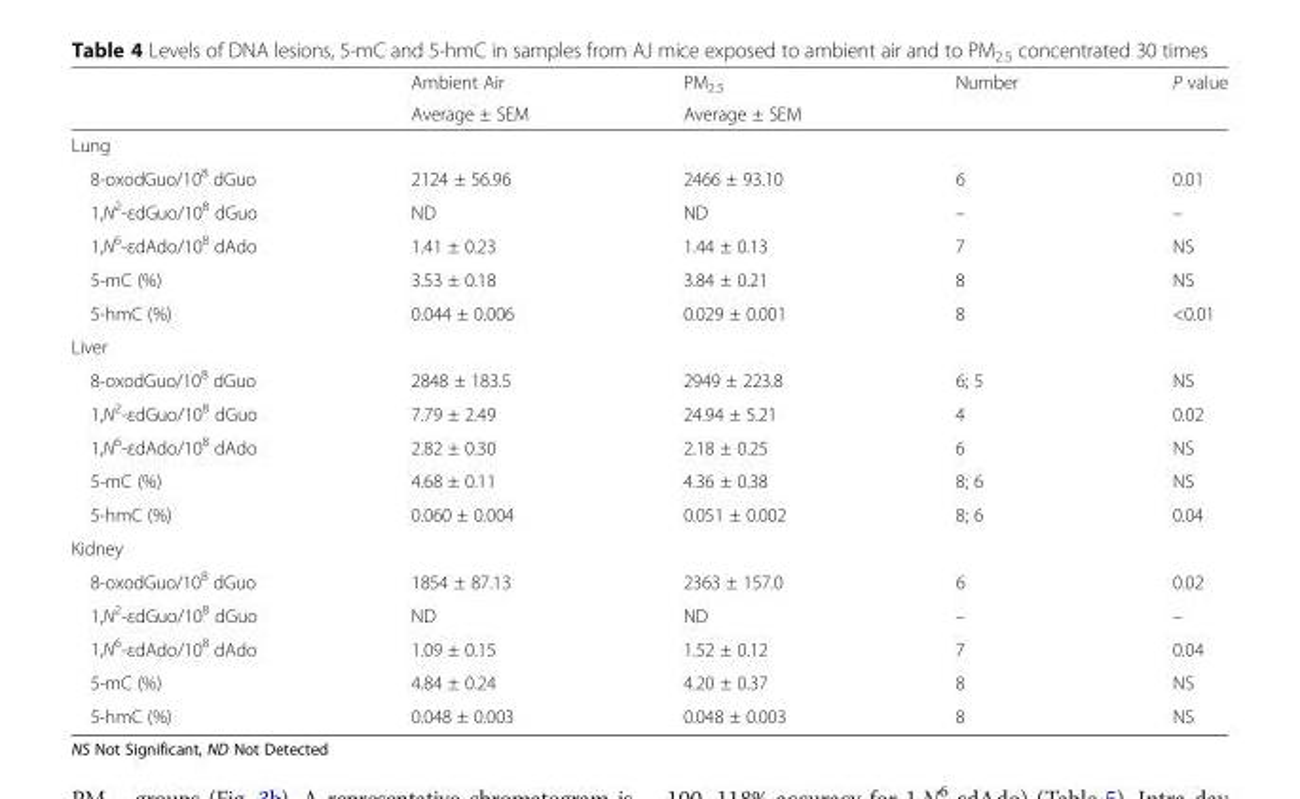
<table><thead><tr><td rowspan="2"></td><td rowspan="2">Ambient Air Average ± SEM</td><td rowspan="2">PM<sub>2.5</sub> Average ± SEM</td><td rowspan="2">Number</td><td rowspan="2">P value</td></tr><tr></tr></thead><tbody><tr><td colspan="5">Lung</td></tr><tr><td>8-oxodGuo/10<sup>8</sup> dGuo</td><td>2124 ± 56.96</td><td>2466 ± 93.10</td><td>6</td><td>0.01</td></tr><tr><td>1,N<sup>2</sup>-εdGuo/10<sup>8</sup> dGuo</td><td>ND</td><td>ND</td><td>–</td><td>–</td></tr><tr><td>1,N<sup>6</sup>-εdAdo/10<sup>8</sup> dAdo</td><td>1.41 ± 0.23</td><td>1.44 ± 0.13</td><td>7</td><td>NS</td></tr><tr><td>5-mC (%)</td><td>3.53 ± 0.18</td><td>3.84 ± 0.21</td><td>8</td><td>NS</td></tr><tr><td>5-hmC (%)</td><td>0.044 ± 0.006</td><td>0.029 ± 0.001</td><td>8</td><td>&lt;0.01</td></tr><tr><td colspan="5">Liver</td></tr><tr><td>8-oxodGuo/10<sup>8</sup> dGuo</td><td>2848 ± 183.5</td><td>2949 ± 223.8</td><td>6; 5</td><td>NS</td></tr><tr><td>1,N<sup>2</sup>-εdGuo/10<sup>8</sup> dGuo</td><td>7.79 ± 2.49</td><td>24.94 ± 5.21</td><td>4</td><td>0.02</td></tr><tr><td>1,N<sup>6</sup>-εdAdo/10<sup>8</sup> dAdo</td><td>2.82 ± 0.30</td><td>2.18 ± 0.25</td><td>6</td><td>NS</td></tr><tr><td>5-mC (%)</td><td>4.68 ± 0.11</td><td>4.36 ± 0.38</td><td>8; 6</td><td>NS</td></tr><tr><td>5-hmC (%)</td><td>0.060 ± 0.004</td><td>0.051 ± 0.002</td><td>8; 6</td><td>0.04</td></tr><tr><td colspan="5">Kidney</td></tr><tr><td>8-oxodGuo/10<sup>8</sup> dGuo</td><td>1854 ± 87.13</td><td>2363 ± 157.0</td><td>6</td><td>0.02</td></tr><tr><td>1,N<sup>2</sup>-εdGuo/10<sup>8</sup> dGuo</td><td>ND</td><td>ND</td><td>–</td><td>–</td></tr><tr><td>1,N<sup>6</sup>-εdAdo/10<sup>8</sup> dAdo</td><td>1.09 ± 0.15</td><td>1.52 ± 0.12</td><td>7</td><td>0.04</td></tr><tr><td>5-mC (%)</td><td>4.84 ± 0.24</td><td>4.20 ± 0.37</td><td>8</td><td>NS</td></tr><tr><td>5-hmC (%)</td><td>0.048 ± 0.003</td><td>0.048 ± 0.003</td><td>8</td><td>NS</td></tr></tbody></table>